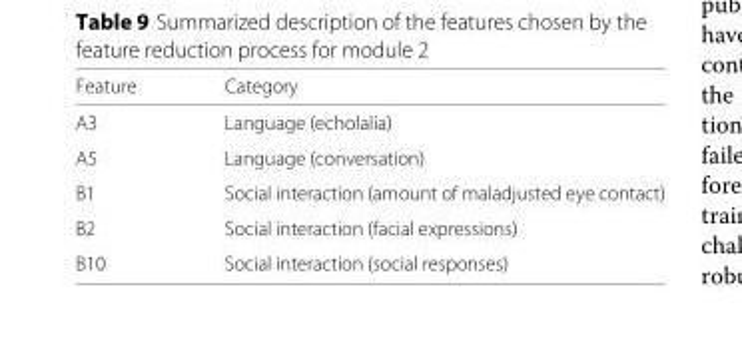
<table><thead><tr><td>Feature</td><td>Category</td></tr></thead><tbody><tr><td>A3</td><td>Language (echolalia)</td></tr><tr><td>A5</td><td>Language (conversation)</td></tr><tr><td>B1</td><td>Social interaction (amount of maladjusted eye contact)</td></tr><tr><td>B2</td><td>Social interaction (facial expressions)</td></tr><tr><td>B10</td><td>Social interaction (social responses)</td></tr></tbody></table>